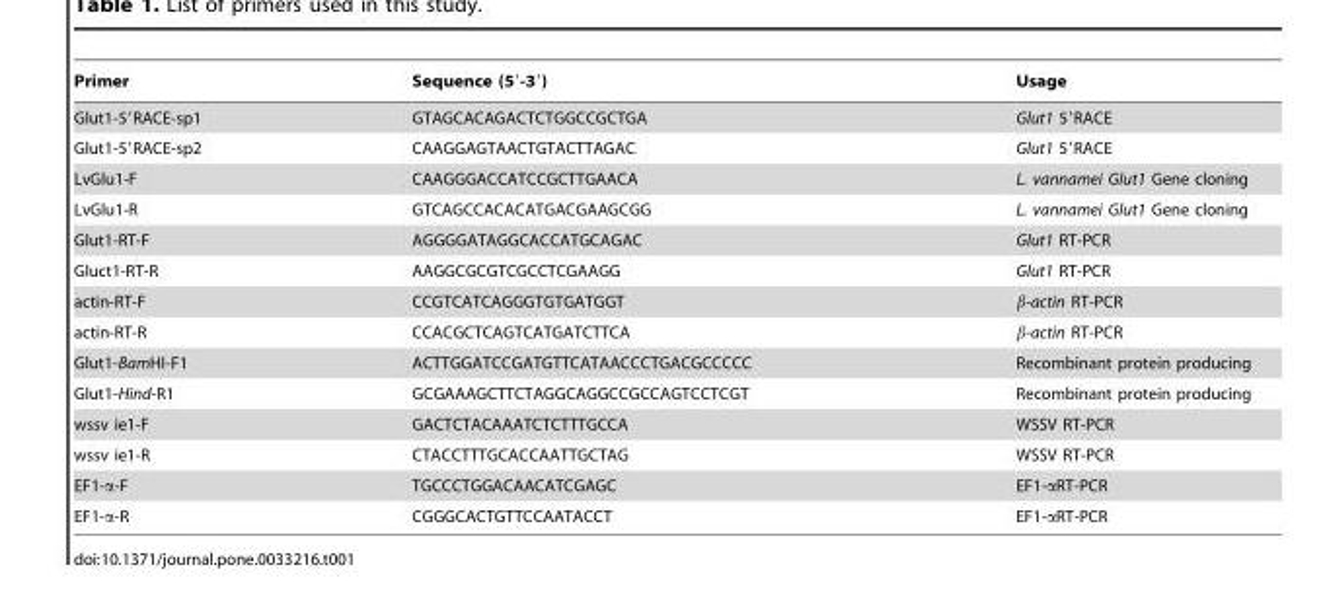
<table><thead><tr><td>Primer</td><td>Sequence (5′-3′)</td><td>Usage</td></tr></thead><tbody><tr><td>Glut1-5′RACE-sp1</td><td>GTAGCACAGACTCTGGCCGCTGA</td><td>Glut1 5′RACE</td></tr><tr><td>Glut1-5′RACE-sp2</td><td>CAAGGAGTAACTGTACTTAGAC</td><td>Glut1 5′RACE</td></tr><tr><td>LvGlu1-F</td><td>CAAGGGACCATCCGCTTGAACA</td><td>L. vannamei Glut1 Gene cloning</td></tr><tr><td>LvGlu1-R</td><td>GTCAGCCACACATGACGAAGCGG</td><td>L. vannamei Glut1 Gene cloning</td></tr><tr><td>Glut1-RT-F</td><td>AGGGGATAGGCACCATGCAGAC</td><td>Glut1 RT-PCR</td></tr><tr><td>Gluct1-RT-R</td><td>AAGGCGCGTCGCCTCGAAGG</td><td>Glut1 RT-PCR</td></tr><tr><td>actin-RT-F</td><td>CCGTCATCAGGGTGTGATGGT</td><td>β-actin RT-PCR</td></tr><tr><td>actin-RT-R</td><td>CCACGCTCAGTCATGATCTTCA</td><td>β-actin RT-PCR</td></tr><tr><td>Glut1-BamHI-F1</td><td>ACTTGGATCCGATGTTCATAACCCTGACGCCCCC</td><td>Recombinant protein producing</td></tr><tr><td>Glut1-Hind-R1</td><td>GCGAAAGCTTCTAGGCAGGCCGCCAGTCCTCGT</td><td>Recombinant protein producing</td></tr><tr><td>wssv ie1-F</td><td>GACTCTACAAATCTCTTTGCCA</td><td>WSSV RT-PCR</td></tr><tr><td>wssv ie1-R</td><td>CTACCTTTGCACCAATTGCTAG</td><td>WSSV RT-PCR</td></tr><tr><td>EF1-α-F</td><td>TGCCCTGGACAACATCGAGC</td><td>EF1-αRT-PCR</td></tr><tr><td>EF1-α-R</td><td>CGGGCACTGTTCCAATACCT</td><td>EF1-αRT-PCR</td></tr></tbody></table>